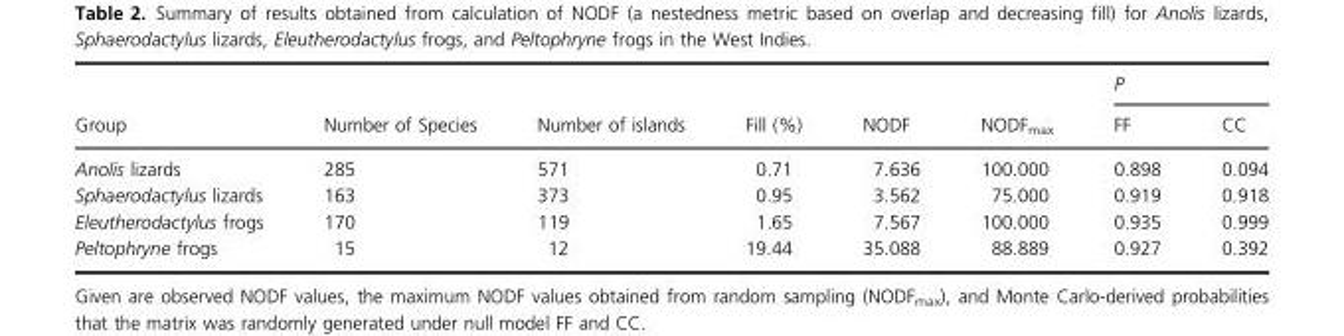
<table><thead><tr><td rowspan="2">Group</td><td rowspan="2">Number of Species</td><td rowspan="2">Number of islands</td><td rowspan="2">Fill (%)</td><td rowspan="2">NODF</td><td rowspan="2">NODF<sub>max</sub></td><td colspan="2">P</td></tr><tr><td>FF</td><td>CC</td></tr></thead><tbody><tr><td>Anolis lizards</td><td>285</td><td>571</td><td>0.71</td><td>7.636</td><td>100.000</td><td>0.898</td><td>0.094</td></tr><tr><td>Sphaerodactylus lizards</td><td>163</td><td>373</td><td>0.95</td><td>3.562</td><td>75.000</td><td>0.919</td><td>0.918</td></tr><tr><td>Eleutherodactylus frogs</td><td>170</td><td>119</td><td>1.65</td><td>7.567</td><td>100.000</td><td>0.935</td><td>0.999</td></tr><tr><td>Peltophryne frogs</td><td>15</td><td>12</td><td>19.44</td><td>35.088</td><td>88.889</td><td>0.927</td><td>0.392</td></tr></tbody></table>